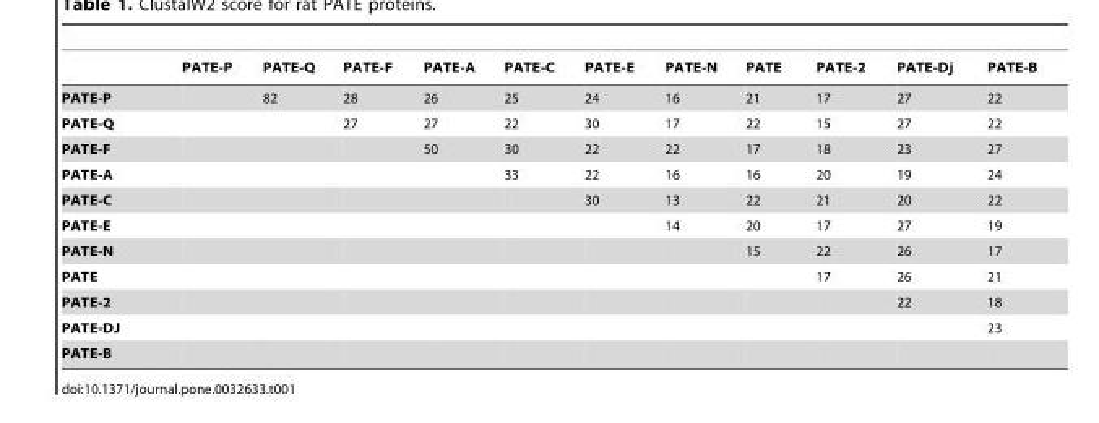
<table><thead><tr><td></td><td>PATE-P</td><td>PATE-Q</td><td>PATE-F</td><td>PATE-A</td><td>PATE-C</td><td>PATE-E</td><td>PATE-N</td><td>PATE</td><td>PATE-2</td><td>PATE-Dj</td><td>PATE-B</td></tr></thead><tbody><tr><td>PATE-P</td><td></td><td>82</td><td>28</td><td>26</td><td>25</td><td>24</td><td>16</td><td>21</td><td>17</td><td>27</td><td>22</td></tr><tr><td>PATE-Q</td><td></td><td></td><td>27</td><td>27</td><td>22</td><td>30</td><td>17</td><td>22</td><td>15</td><td>27</td><td>22</td></tr><tr><td>PATE-F</td><td></td><td></td><td></td><td>50</td><td>30</td><td>22</td><td>22</td><td>17</td><td>18</td><td>23</td><td>27</td></tr><tr><td>PATE-A</td><td></td><td></td><td></td><td></td><td>33</td><td>22</td><td>16</td><td>16</td><td>20</td><td>19</td><td>24</td></tr><tr><td>PATE-C</td><td></td><td></td><td></td><td></td><td></td><td>30</td><td>13</td><td>22</td><td>21</td><td>20</td><td>22</td></tr><tr><td>PATE-E</td><td></td><td></td><td></td><td></td><td></td><td></td><td>14</td><td>20</td><td>17</td><td>27</td><td>19</td></tr><tr><td>PATE-N</td><td></td><td></td><td></td><td></td><td></td><td></td><td></td><td>15</td><td>22</td><td>26</td><td>17</td></tr><tr><td>PATE</td><td></td><td></td><td></td><td></td><td></td><td></td><td></td><td></td><td>17</td><td>26</td><td>21</td></tr><tr><td>PATE-2</td><td></td><td></td><td></td><td></td><td></td><td></td><td></td><td></td><td></td><td>22</td><td>18</td></tr><tr><td>PATE-DJ</td><td></td><td></td><td></td><td></td><td></td><td></td><td></td><td></td><td></td><td></td><td>23</td></tr><tr><td>PATE-B</td><td></td><td></td><td></td><td></td><td></td><td></td><td></td><td></td><td></td><td></td><td></td></tr></tbody></table>